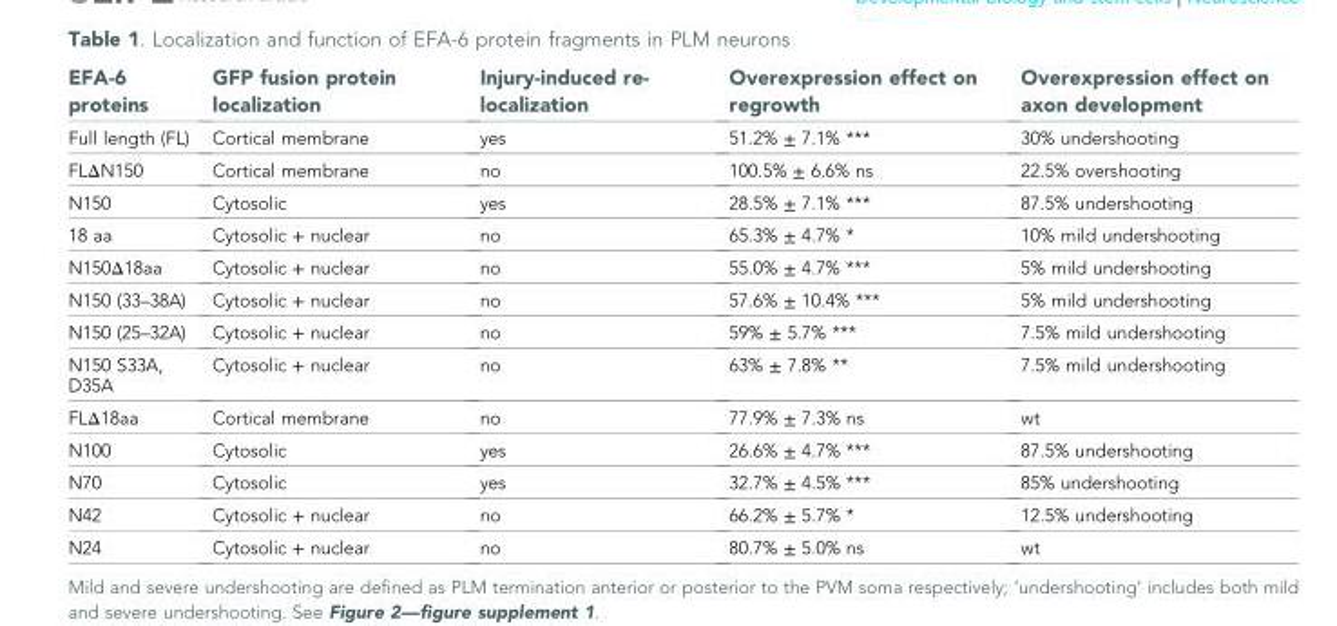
<table><thead><tr><td>EFA-6 proteins</td><td>GFP fusion protein localization</td><td>Injury-induced re- localization</td><td>Overexpression effect on regrowth</td><td>Overexpression effect on axon development</td></tr></thead><tbody><tr><td>Full length (FL)</td><td>Cortical membrane</td><td>yes</td><td>51.2% ± 7.1% ***</td><td>30% undershooting</td></tr><tr><td>FLΔN150</td><td>Cortical membrane</td><td>no</td><td>100.5% ± 6.6% ns</td><td>22.5% overshooting</td></tr><tr><td>N150</td><td>Cytosolic</td><td>yes</td><td>28.5% ± 7.1% ***</td><td>87.5% undershooting</td></tr><tr><td>18 aa</td><td>Cytosolic + nuclear</td><td>no</td><td>65.3% ± 4.7% *</td><td>10% mild undershooting</td></tr><tr><td>N150Δ18aa</td><td>Cytosolic + nuclear</td><td>no</td><td>55.0% ± 4.7% ***</td><td>5% mild undershooting</td></tr><tr><td>N150 (33–38A)</td><td>Cytosolic + nuclear</td><td>no</td><td>57.6% ± 10.4% ***</td><td>5% mild undershooting</td></tr><tr><td>N150 (25–32A)</td><td>Cytosolic + nuclear</td><td>no</td><td>59% ± 5.7% ***</td><td>7.5% mild undershooting</td></tr><tr><td>N150 S33A, D35A</td><td>Cytosolic + nuclear</td><td>no</td><td>63% ± 7.8% **</td><td>7.5% mild undershooting</td></tr><tr><td>FLΔ18aa</td><td>Cortical membrane</td><td>no</td><td>77.9% ± 7.3% ns</td><td>wt</td></tr><tr><td>N100</td><td>Cytosolic</td><td>yes</td><td>26.6% ± 4.7% ***</td><td>87.5% undershooting</td></tr><tr><td>N70</td><td>Cytosolic</td><td>yes</td><td>32.7% ± 4.5% ***</td><td>85% undershooting</td></tr><tr><td>N42</td><td>Cytosolic + nuclear</td><td>no</td><td>66.2% ± 5.7% *</td><td>12.5% undershooting</td></tr><tr><td>N24</td><td>Cytosolic + nuclear</td><td>no</td><td>80.7% ± 5.0% ns</td><td>wt</td></tr></tbody></table>